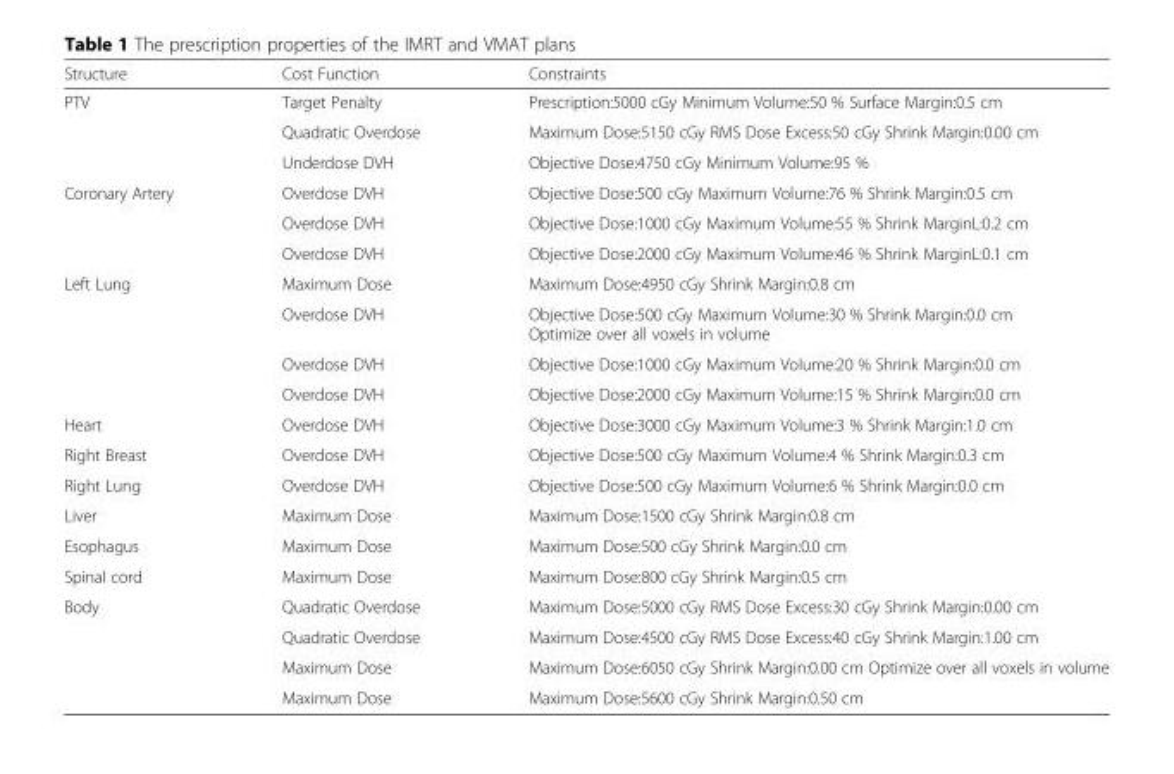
<table><thead><tr><td>Structure</td><td>Cost Function</td><td>Constraints</td></tr></thead><tbody><tr><td rowspan="3">PTV</td><td>Target Penalty</td><td>Prescription:5000 cGy Minimum Volume:50 % Surface Margin:0.5 cm</td></tr><tr><td>Quadratic Overdose</td><td>Maximum Dose:5150 cGy RMS Dose Excess:50 cGy Shrink Margin:0.00 cm</td></tr><tr><td>Underdose DVH</td><td>Objective Dose:4750 cGy Minimum Volume:95 %</td></tr><tr><td rowspan="3">Coronary Artery</td><td>Overdose DVH</td><td>Objective Dose:500 cGy Maximum Volume:76 % Shrink Margin:0.5 cm</td></tr><tr><td>Overdose DVH</td><td>Objective Dose:1000 cGy Maximum Volume:55 % Shrink MarginL:0.2 cm</td></tr><tr><td>Overdose DVH</td><td>Objective Dose:2000 cGy Maximum Volume:46 % Shrink MarginL:0.1 cm</td></tr><tr><td rowspan="4">Left Lung</td><td>Maximum Dose</td><td>Maximum Dose:4950 cGy Shrink Margin:0.8 cm</td></tr><tr><td>Overdose DVH</td><td>Objective Dose:500 cGy Maximum Volume:30 % Shrink Margin:0.0 cm Optimize over all voxels in volume</td></tr><tr><td>Overdose DVH</td><td>Objective Dose:1000 cGy Maximum Volume:20 % Shrink Margin:0.0 cm</td></tr><tr><td>Overdose DVH</td><td>Objective Dose:2000 cGy Maximum Volume:15 % Shrink Margin:0.0 cm</td></tr><tr><td>Heart</td><td>Overdose DVH</td><td>Objective Dose:3000 cGy Maximum Volume:3 % Shrink Margin:1.0 cm</td></tr><tr><td>Right Breast</td><td>Overdose DVH</td><td>Objective Dose:500 cGy Maximum Volume:4 % Shrink Margin:0.3 cm</td></tr><tr><td>Right Lung</td><td>Overdose DVH</td><td>Objective Dose:500 cGy Maximum Volume:6 % Shrink Margin:0.0 cm</td></tr><tr><td>Liver</td><td>Maximum Dose</td><td>Maximum Dose:1500 cGy Shrink Margin:0.8 cm</td></tr><tr><td>Esophagus</td><td>Maximum Dose</td><td>Maximum Dose:500 cGy Shrink Margin:0.0 cm</td></tr><tr><td>Spinal cord</td><td>Maximum Dose</td><td>Maximum Dose:800 cGy Shrink Margin:0.5 cm</td></tr><tr><td rowspan="4">Body</td><td>Quadratic Overdose</td><td>Maximum Dose:5000 cGy RMS Dose Excess:30 cGy Shrink Margin:0.00 cm</td></tr><tr><td>Quadratic Overdose</td><td>Maximum Dose:4500 cGy RMS Dose Excess:40 cGy Shrink Margin:1.00 cm</td></tr><tr><td>Maximum Dose</td><td>Maximum Dose:6050 cGy Shrink Margin:0.00 cm Optimize over all voxels in volume</td></tr><tr><td>Maximum Dose</td><td>Maximum Dose:5600 cGy Shrink Margin:0.50 cm</td></tr></tbody></table>